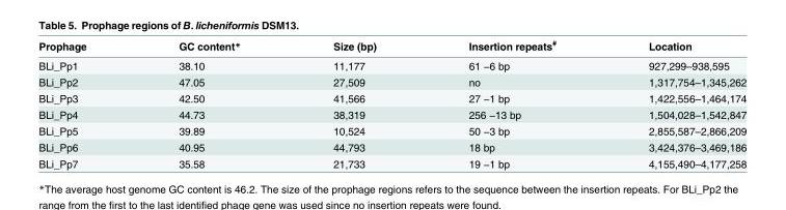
<table><thead><tr><td>Prophage</td><td>GC content*</td><td>Size (bp)</td><td>Insertion repeats<sup>#</sup></td><td>Location</td></tr></thead><tbody><tr><td>BLi_Pp1</td><td>38.10</td><td>11,177</td><td>61 −6 bp</td><td>927,299–938,595</td></tr><tr><td>BLi_Pp2</td><td>47.05</td><td>27,509</td><td>no</td><td>1,317,754–1,345,262</td></tr><tr><td>BLi_Pp3</td><td>42.50</td><td>41,566</td><td>27 −1 bp</td><td>1,422,556–1,464,174</td></tr><tr><td>BLi_Pp4</td><td>44.73</td><td>38,319</td><td>256 −13 bp</td><td>1,504,028–1,542,847</td></tr><tr><td>BLi_Pp5</td><td>39.89</td><td>10,524</td><td>50 −3 bp</td><td>2,855,587–2,866,209</td></tr><tr><td>BLi_Pp6</td><td>40.95</td><td>44,793</td><td>18 bp</td><td>3,424,376–3,469,186</td></tr><tr><td>BLi_Pp7</td><td>35.58</td><td>21,733</td><td>19 −1 bp</td><td>4,155,490–4,177,258</td></tr></tbody></table>